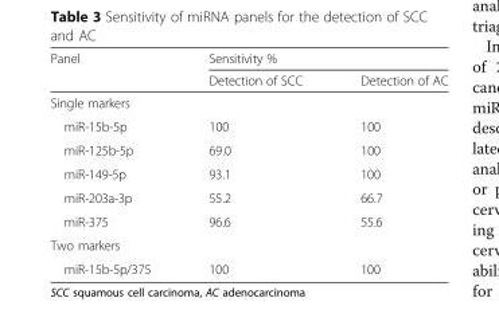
<table><thead><tr><td rowspan="2">Panel</td><td colspan="2">Sensitivity %</td></tr><tr><td>Detection of SCC</td><td>Detection of AC</td></tr></thead><tbody><tr><td colspan="3">Single markers</td></tr><tr><td>miR-15b-5p</td><td>100</td><td>100</td></tr><tr><td>miR-125b-5p</td><td>69.0</td><td>100</td></tr><tr><td>miR-149-5p</td><td>93.1</td><td>100</td></tr><tr><td>miR-203a-3p</td><td>55.2</td><td>66.7</td></tr><tr><td>miR-375</td><td>96.6</td><td>55.6</td></tr><tr><td colspan="3">Two markers</td></tr><tr><td>miR-15b-5p/375</td><td>100</td><td>100</td></tr></tbody></table>